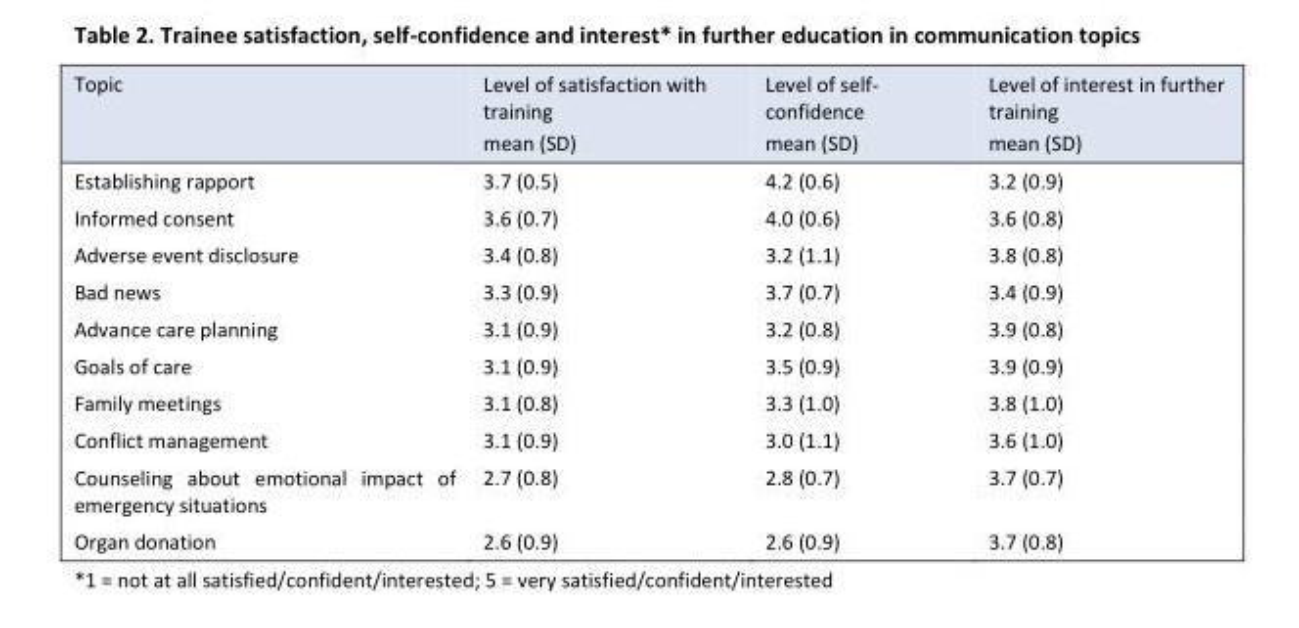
<table><thead><tr><td>Topic</td><td>Level of satisfaction with training mean (SD)</td><td>Level of self- confidence mean (SD)</td><td>Level of interest in further training mean (SD)</td></tr></thead><tbody><tr><td>Establishing rapport</td><td>3.7 (0.5)</td><td>4.2 (0.6)</td><td>3.2 (0.9)</td></tr><tr><td>Informed consent</td><td>3.6 (0.7)</td><td>4.0 (0.6)</td><td>3.6 (0.8)</td></tr><tr><td>Adverse event disclosure</td><td>3.4 (0.8)</td><td>3.2 (1.1)</td><td>3.8 (0.8)</td></tr><tr><td>Bad news</td><td>3.3 (0.9)</td><td>3.7 (0.7)</td><td>3.4 (0.9)</td></tr><tr><td>Advance care planning</td><td>3.1 (0.9)</td><td>3.2 (0.8)</td><td>3.9 (0.8)</td></tr><tr><td>Goals of care</td><td>3.1 (0.9)</td><td>3.5 (0.9)</td><td>3.9 (0.9)</td></tr><tr><td>Family meetings</td><td>3.1 (0.8)</td><td>3.3 (1.0)</td><td>3.8 (1.0)</td></tr><tr><td>Conflict management</td><td>3.1 (0.9)</td><td>3.0 (1.1)</td><td>3.6 (1.0)</td></tr><tr><td>Counseling about emotional impact of emergency situations</td><td>2.7 (0.8)</td><td>2.8 (0.7)</td><td>3.7 (0.7)</td></tr><tr><td>Organ donation</td><td>2.6 (0.9)</td><td>2.6 (0.9)</td><td>3.7 (0.8)</td></tr></tbody></table>